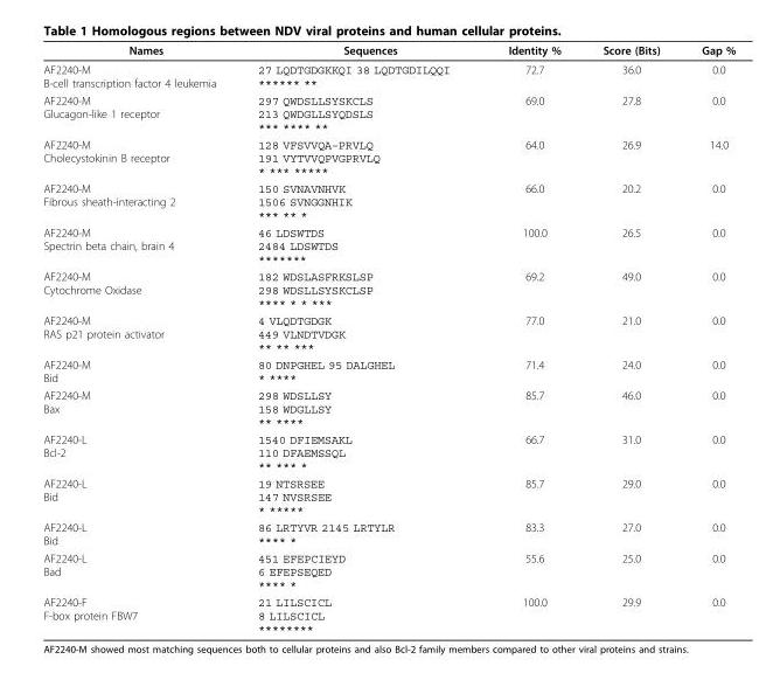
<table><thead><tr><td>Names</td><td>Sequences</td><td>Identity %</td><td>Score (Bits)</td><td>Gap %</td></tr></thead><tbody><tr><td>AF2240-M B-cell transcription factor 4 leukemia</td><td>27 LQDTGDGKKQI 38 LQDTGDILQQI ****** **</td><td>72.7</td><td>36.0</td><td>0.0</td></tr><tr><td>AF2240-M Glucagon-like 1 receptor</td><td>297 QWDSLLSYSKCLS 213 QWDGLLSYQDSLS *** **** **</td><td>69.0</td><td>27.8</td><td>0.0</td></tr><tr><td>AF2240-M Cholecystokinin B receptor</td><td>128 VFSVVQA–PRVLQ 191 VYTVVQPVGPRVLQ * *** *****</td><td>64.0</td><td>26.9</td><td>14.0</td></tr><tr><td>AF2240-M Fibrous sheath-interacting 2</td><td>150 SVNAVNHVK 1506 SVNGGNHIK *** ** *</td><td>66.0</td><td>20.2</td><td>0.0</td></tr><tr><td>AF2240-M Spectrin beta chain, brain 4</td><td>46 LDSWTDS 2484 LDSWTDS *******</td><td>100.0</td><td>26.5</td><td>0.0</td></tr><tr><td>AF2240-M Cytochrome Oxidase</td><td>182 WDSLASFRKSLSP 298 WDSLLSYSKCLSP **** * * ***</td><td>69.2</td><td>49.0</td><td>0.0</td></tr><tr><td>AF2240-M RAS p21 protein activator</td><td>4 VLQDTGDGK 449 VLNDTVDGK ** ** ***</td><td>77.0</td><td>21.0</td><td>0.0</td></tr><tr><td>AF2240-M Bid</td><td>80 DNPGHEL 95 DALGHEL * ****</td><td>71.4</td><td>24.0</td><td>0.0</td></tr><tr><td>AF2240-M Bax</td><td>298 WDSLLSY 158 WDGLLSY ** ****</td><td>85.7</td><td>46.0</td><td>0.0</td></tr><tr><td>AF2240-L Bcl-2</td><td>1540 DFIEMSAKL 110 DFAEMSSQL ** *** *</td><td>66.7</td><td>31.0</td><td>0.0</td></tr><tr><td>AF2240-L Bid</td><td>19 NTSRSEE 147 NVSRSEE * *****</td><td>85.7</td><td>29.0</td><td>0.0</td></tr><tr><td>AF2240-L Bid</td><td>86 LRTYVR 2145 LRTYLR **** *</td><td>83.3</td><td>27.0</td><td>0.0</td></tr><tr><td>AF2240-L Bad</td><td>451 EFEPCIEYD 6 EFEPSEQED **** *</td><td>55.6</td><td>25.0</td><td>0.0</td></tr><tr><td>AF2240-F F-box protein FBW7</td><td>21 LILSCICL 8 LILSCICL ********</td><td>100.0</td><td>29.9</td><td>0.0</td></tr></tbody></table>